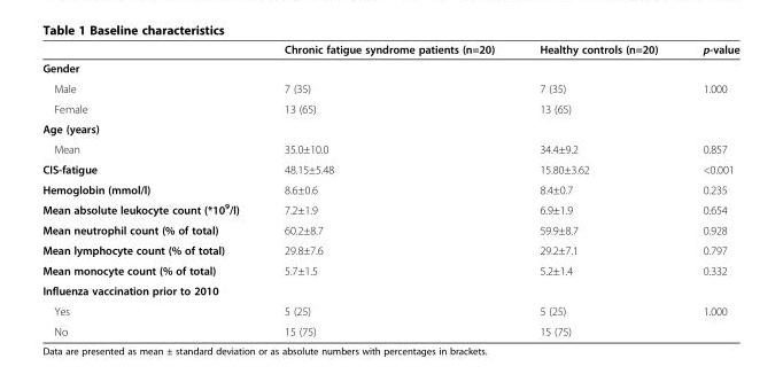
<table><thead><tr><td></td><td>Chronic fatigue syndrome patients (n=20)</td><td>Healthy controls (n=20)</td><td>p-value</td></tr></thead><tbody><tr><td colspan="4">Gender</td></tr><tr><td>Male</td><td>7 (35)</td><td>7 (35)</td><td>1.000</td></tr><tr><td>Female</td><td>13 (65)</td><td>13 (65)</td><td></td></tr><tr><td colspan="4">Age (years)</td></tr><tr><td>Mean</td><td>35.0±10.0</td><td>34.4±9.2</td><td>0.857</td></tr><tr><td>CIS-fatigue</td><td>48.15±5.48</td><td>15.80±3.62</td><td>&lt;0.001</td></tr><tr><td>Hemoglobin (mmol/l)</td><td>8.6±0.6</td><td>8.4±0.7</td><td>0.235</td></tr><tr><td>Mean absolute leukocyte count (*10<sup>9</sup>/l)</td><td>7.2±1.9</td><td>6.9±1.9</td><td>0.654</td></tr><tr><td>Mean neutrophil count (% of total)</td><td>60.2±8.7</td><td>59.9±8.7</td><td>0.928</td></tr><tr><td>Mean lymphocyte count (% of total)</td><td>29.8±7.6</td><td>29.2±7.1</td><td>0.797</td></tr><tr><td>Mean monocyte count (% of total)</td><td>5.7±1.5</td><td>5.2±1.4</td><td>0.332</td></tr><tr><td colspan="4">Influenza vaccination prior to 2010</td></tr><tr><td>Yes</td><td>5 (25)</td><td>5 (25)</td><td>1.000</td></tr><tr><td>No</td><td>15 (75)</td><td>15 (75)</td><td></td></tr></tbody></table>